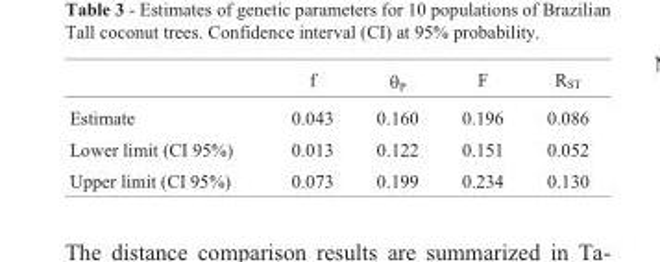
<table><thead><tr><td></td><td>f</td><td>θ<sub>P</sub></td><td>F</td><td>R<sub>ST</sub></td></tr></thead><tbody><tr><td>Estimate</td><td>0.043</td><td>0.160</td><td>0.196</td><td>0.086</td></tr><tr><td>Lower limit (CI 95%)</td><td>0.013</td><td>0.122</td><td>0.151</td><td>0.052</td></tr><tr><td>Upper limit (CI 95%)</td><td>0.073</td><td>0.199</td><td>0.234</td><td>0.130</td></tr></tbody></table>